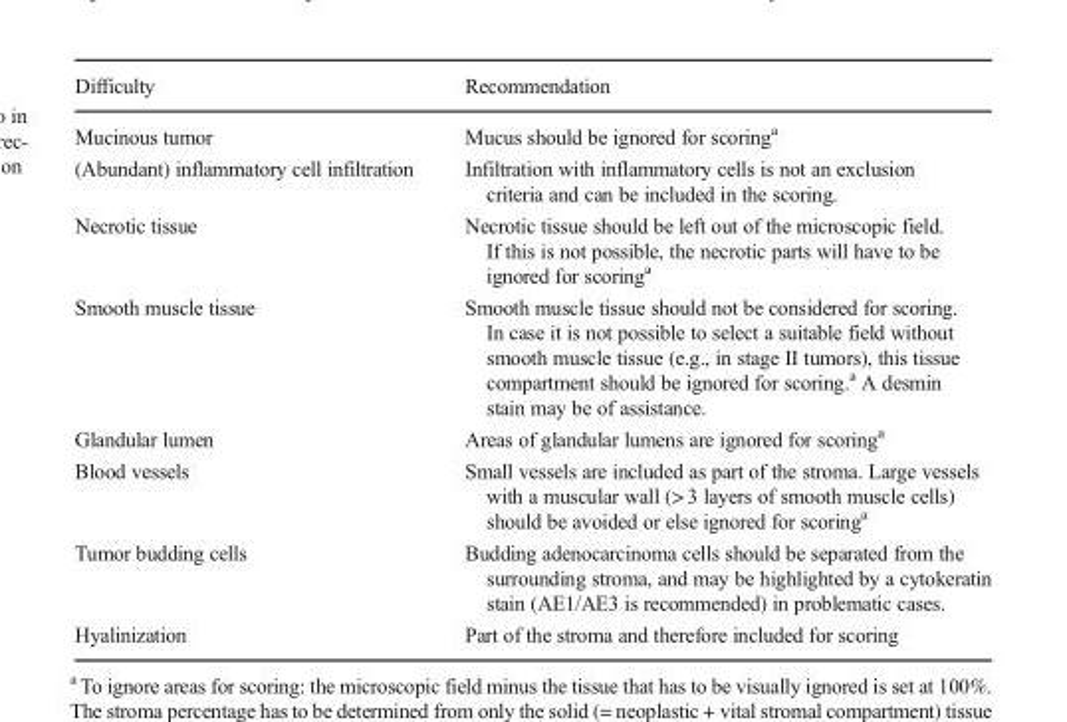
<table><thead><tr><td>Difficulty</td><td>Recommendation</td></tr></thead><tbody><tr><td>Mucinous tumor</td><td>Mucus should be ignored for scoring<sup>a</sup></td></tr><tr><td>(Abundant) inflammatory cell infiltration</td><td>Infiltration with inflammatory cells is not an exclusion criteria and can be included in the scoring.</td></tr><tr><td>Necrotic tissue</td><td>Necrotic tissue should be left out of the microscopic field. If this is not possible, the necrotic parts will have to be ignored for scoring<sup>a</sup></td></tr><tr><td>Smooth muscle tissue</td><td>Smooth muscle tissue should not be considered for scoring. In case it is not possible to select a suitable field without smooth muscle tissue (e.g., in stage II tumors), this tissue compartment should be ignored for scoring.<sup>a</sup> A desmin stain may be of assistance.</td></tr><tr><td>Glandular lumen</td><td>Areas of glandular lumens are ignored for scoring<sup>a</sup></td></tr><tr><td>Blood vessels</td><td>Small vessels are included as part of the stroma. Large vessels with a muscular wall (&gt; 3 layers of smooth muscle cells) should be avoided or else ignored for scoring<sup>a</sup></td></tr><tr><td>Tumor budding cells</td><td>Budding adenocarcinoma cells should be separated from the surrounding stroma, and may be highlighted by a cytokeratin stain (AE1/AE3 is recommended) in problematic cases.</td></tr><tr><td>Hyalinization</td><td>Part of the stroma and therefore included for scoring</td></tr></tbody></table>